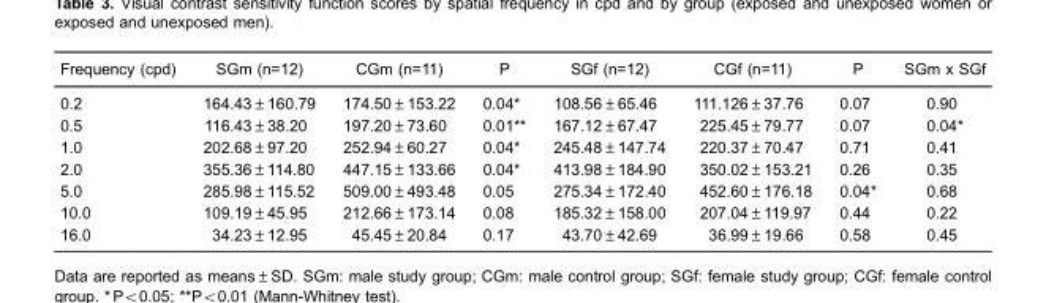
<table><thead><tr><td>Frequency (cpd)</td><td>SGm (n=12)</td><td>CGm (n=11)</td><td>P</td><td>SGf (n=12)</td><td>CGf (n=11)</td><td>P</td><td>SGm x SGf</td></tr></thead><tbody><tr><td>0.2</td><td>164.43±160.79</td><td>174.50±153.22</td><td>0.04*</td><td>108.56±65.46</td><td>111.126±37.76</td><td>0.07</td><td>0.90</td></tr><tr><td>0.5</td><td>116.43±38.20</td><td>197.20±73.60</td><td>0.01**</td><td>167.12±67.47</td><td>225.45±79.77</td><td>0.07</td><td>0.04*</td></tr><tr><td>1.0</td><td>202.68±97.20</td><td>252.94±60.27</td><td>0.04*</td><td>245.48±147.74</td><td>220.37±70.47</td><td>0.71</td><td>0.41</td></tr><tr><td>2.0</td><td>355.36±114.80</td><td>447.15±133.66</td><td>0.04*</td><td>413.98±184.90</td><td>350.02±153.21</td><td>0.26</td><td>0.35</td></tr><tr><td>5.0</td><td>285.98±115.52</td><td>509.00±493.48</td><td>0.05</td><td>275.34±172.40</td><td>452.60±176.18</td><td>0.04*</td><td>0.68</td></tr><tr><td>10.0</td><td>109.19±45.95</td><td>212.66±173.14</td><td>0.08</td><td>185.32±158.00</td><td>207.04±119.97</td><td>0.44</td><td>0.22</td></tr><tr><td>16.0</td><td>34.23±12.95</td><td>45.45±20.84</td><td>0.17</td><td>43.70±42.69</td><td>36.99±19.66</td><td>0.58</td><td>0.45</td></tr></tbody></table>